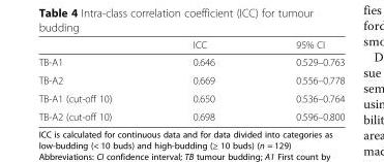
<table><thead><tr><td></td><td>ICC</td><td>95% CI</td></tr></thead><tbody><tr><td>TB-A1</td><td>0.646</td><td>0.529–0.763</td></tr><tr><td>TB-A2</td><td>0.669</td><td>0.556–0.778</td></tr><tr><td>TB-A1 (cut-off 10)</td><td>0.650</td><td>0.536–0.764</td></tr><tr><td>TB-A2 (cut-off 10)</td><td>0.698</td><td>0.596–0.800</td></tr></tbody></table>